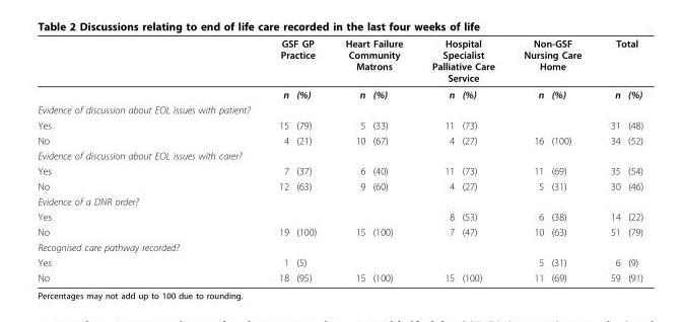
<table><thead><tr><td rowspan="2"></td><td colspan="2">GSF GP Practice</td><td colspan="2">Heart Failure Community Matrons</td><td colspan="2">Hospital Specialist Palliative Care Service</td><td colspan="2">Non-GSF Nursing Care Home</td><td colspan="2">Total</td></tr><tr><td>n</td><td>(%)</td><td>n</td><td>(%)</td><td>n</td><td>(%)</td><td>n</td><td>(%)</td><td>n</td><td>(%)</td></tr></thead><tbody><tr><td colspan="11">Evidence of discussion about EOL issues with patient?</td></tr><tr><td>Yes</td><td>15</td><td>(79)</td><td>5</td><td>(33)</td><td>11</td><td>(73)</td><td></td><td></td><td>31</td><td>(48)</td></tr><tr><td>No</td><td>4</td><td>(21)</td><td>10</td><td>(67)</td><td>4</td><td>(27)</td><td>16</td><td>(100)</td><td>34</td><td>(52)</td></tr><tr><td colspan="11">Evidence of discussion about EOL issues with carer?</td></tr><tr><td>Yes</td><td>7</td><td>(37)</td><td>6</td><td>(40)</td><td>11</td><td>(73)</td><td>11</td><td>(69)</td><td>35</td><td>(54)</td></tr><tr><td>No</td><td>12</td><td>(63)</td><td>9</td><td>(60)</td><td>4</td><td>(27)</td><td>5</td><td>(31)</td><td>30</td><td>(46)</td></tr><tr><td colspan="11">Evidence of a DNR order?</td></tr><tr><td>Yes</td><td></td><td></td><td></td><td></td><td>8</td><td>(53)</td><td>6</td><td>(38)</td><td>14</td><td>(22)</td></tr><tr><td>No</td><td>19</td><td>(100)</td><td>15</td><td>(100)</td><td>7</td><td>(47)</td><td>10</td><td>(63)</td><td>51</td><td>(79)</td></tr><tr><td colspan="11">Recognised care pathway recorded?</td></tr><tr><td>Yes</td><td>1</td><td>(5)</td><td></td><td></td><td></td><td></td><td>5</td><td>(31)</td><td>6</td><td>(9)</td></tr><tr><td>No</td><td>18</td><td>(95)</td><td>15</td><td>(100)</td><td>15</td><td>(100)</td><td>11</td><td>(69)</td><td>59</td><td>(91)</td></tr></tbody></table>